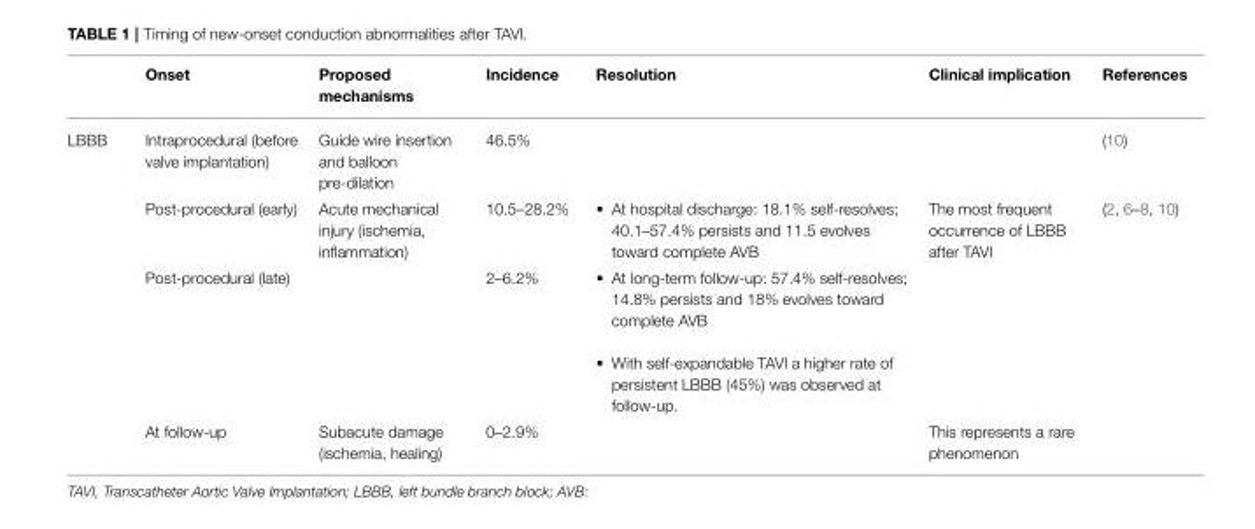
<table><thead><tr><td></td><td>Onset</td><td>Proposed mechanisms</td><td>Incidence</td><td>Resolution</td><td>Clinical implication</td><td>References</td></tr></thead><tbody><tr><td rowspan="5">LBBB</td><td>Intraprocedural (before valve implantation)</td><td>Guide wire insertion and balloon pre-dilation</td><td>46.5%</td><td></td><td></td><td>(10)</td></tr><tr><td>Post-procedural (early)</td><td>Acute mechanical injury (ischemia, inflammation)</td><td>10.5–28.2%</td><td>• At hospital discharge: 18.1% self-resolves; 40.1–57.4% persists and 11.5 evolves toward complete AVB</td><td>The most frequent occurrence of LBBB after TAVI</td><td>(2, 6–8, 10)</td></tr><tr><td>Post-procedural (late)</td><td></td><td>2–6.2%</td><td>• At long-term follow-up: 57.4% self-resolves; 14.8% persists and 18% evolves toward complete AVB</td><td></td><td></td></tr><tr><td></td><td></td><td></td><td>• With self-expandable TAVI a higher rate of persistent LBBB (45%) was observed at follow-up.</td><td></td><td></td></tr><tr><td>At follow-up</td><td>Subacute damage (ischemia, healing)</td><td>0–2.9%</td><td></td><td>This represents a rare phenomenon</td><td></td></tr></tbody></table>